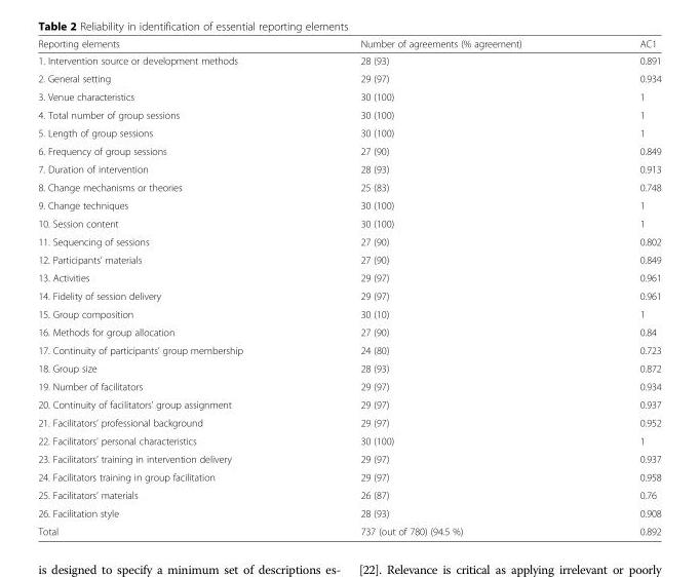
<table><thead><tr><td>Reporting elements</td><td>Number of agreements (% agreement)</td><td>AC1</td></tr></thead><tbody><tr><td>1. Intervention source or development methods</td><td>28 (93)</td><td>0.891</td></tr><tr><td>2. General setting</td><td>29 (97)</td><td>0.934</td></tr><tr><td>3. Venue characteristics</td><td>30 (100)</td><td>1</td></tr><tr><td>4. Total number of group sessions</td><td>30 (100)</td><td>1</td></tr><tr><td>5. Length of group sessions</td><td>30 (100)</td><td>1</td></tr><tr><td>6. Frequency of group sessions</td><td>27 (90)</td><td>0.849</td></tr><tr><td>7. Duration of intervention</td><td>28 (93)</td><td>0.913</td></tr><tr><td>8. Change mechanisms or theories</td><td>25 (83)</td><td>0.748</td></tr><tr><td>9. Change techniques</td><td>30 (100)</td><td>1</td></tr><tr><td>10. Session content</td><td>30 (100)</td><td>1</td></tr><tr><td>11. Sequencing of sessions</td><td>27 (90)</td><td>0.802</td></tr><tr><td>12. Participants’ materials</td><td>27 (90)</td><td>0.849</td></tr><tr><td>13. Activities</td><td>29 (97)</td><td>0.961</td></tr><tr><td>14. Fidelity of session delivery</td><td>29 (97)</td><td>0.961</td></tr><tr><td>15. Group composition</td><td>30 (10)</td><td>1</td></tr><tr><td>16. Methods for group allocation</td><td>27 (90)</td><td>0.84</td></tr><tr><td>17. Continuity of participants’ group membership</td><td>24 (80)</td><td>0.723</td></tr><tr><td>18. Group size</td><td>28 (93)</td><td>0.872</td></tr><tr><td>19. Number of facilitators</td><td>29 (97)</td><td>0.934</td></tr><tr><td>20. Continuity of facilitators’ group assignment</td><td>29 (97)</td><td>0.937</td></tr><tr><td>21. Facilitators’ professional background</td><td>29 (97)</td><td>0.952</td></tr><tr><td>22. Facilitators’ personal characteristics</td><td>30 (100)</td><td>1</td></tr><tr><td>23. Facilitators’ training in intervention delivery</td><td>29 (97)</td><td>0.937</td></tr><tr><td>24. Facilitators training in group facilitation</td><td>29 (97)</td><td>0.958</td></tr><tr><td>25. Facilitators’ materials</td><td>26 (87)</td><td>0.76</td></tr><tr><td>26. Facilitation style</td><td>28 (93)</td><td>0.908</td></tr><tr><td>Total</td><td>737 (out of 780) (94.5 %)</td><td>0.892</td></tr></tbody></table>